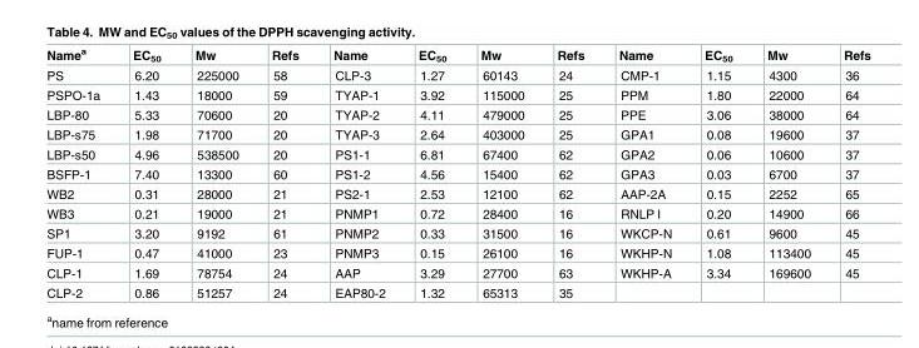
<table><thead><tr><td>Name<sup>a</sup></td><td>EC<sub>50</sub></td><td>Mw</td><td>Refs</td><td>Name</td><td>EC<sub>50</sub></td><td>Mw</td><td>Refs</td><td>Name</td><td>EC<sub>50</sub></td><td>Mw</td><td>Refs</td></tr></thead><tbody><tr><td>PS</td><td>6.20</td><td>225000</td><td>58</td><td>CLP-3</td><td>1.27</td><td>60143</td><td>24</td><td>CMP-1</td><td>1.15</td><td>4300</td><td>36</td></tr><tr><td>PSPO-1a</td><td>1.43</td><td>18000</td><td>59</td><td>TYAP-1</td><td>3.92</td><td>115000</td><td>25</td><td>PPM</td><td>1.80</td><td>22000</td><td>64</td></tr><tr><td>LBP-80</td><td>5.33</td><td>70600</td><td>20</td><td>TYAP-2</td><td>4.11</td><td>479000</td><td>25</td><td>PPE</td><td>3.06</td><td>38000</td><td>64</td></tr><tr><td>LBP-s75</td><td>1.98</td><td>71700</td><td>20</td><td>TYAP-3</td><td>2.64</td><td>403000</td><td>25</td><td>GPA1</td><td>0.08</td><td>19600</td><td>37</td></tr><tr><td>LBP-s50</td><td>4.96</td><td>538500</td><td>20</td><td>PS1-1</td><td>6.81</td><td>67400</td><td>62</td><td>GPA2</td><td>0.06</td><td>10600</td><td>37</td></tr><tr><td>BSFP-1</td><td>7.40</td><td>13300</td><td>60</td><td>PS1-2</td><td>4.56</td><td>15400</td><td>62</td><td>GPA3</td><td>0.03</td><td>6700</td><td>37</td></tr><tr><td>WB2</td><td>0.31</td><td>28000</td><td>21</td><td>PS2-1</td><td>2.53</td><td>12100</td><td>62</td><td>AAP-2A</td><td>0.15</td><td>2252</td><td>65</td></tr><tr><td>WB3</td><td>0.21</td><td>19000</td><td>21</td><td>PNMP1</td><td>0.72</td><td>28400</td><td>16</td><td>RNLP I</td><td>0.20</td><td>14900</td><td>66</td></tr><tr><td>SP1</td><td>3.20</td><td>9192</td><td>61</td><td>PNMP2</td><td>0.33</td><td>31500</td><td>16</td><td>WKCP-N</td><td>0.61</td><td>9600</td><td>45</td></tr><tr><td>FUP-1</td><td>0.47</td><td>41000</td><td>23</td><td>PNMP3</td><td>0.15</td><td>26100</td><td>16</td><td>WKHP-N</td><td>1.08</td><td>113400</td><td>45</td></tr><tr><td>CLP-1</td><td>1.69</td><td>78754</td><td>24</td><td>AAP</td><td>3.29</td><td>27700</td><td>63</td><td>WKHP-A</td><td>3.34</td><td>169600</td><td>45</td></tr><tr><td>CLP-2</td><td>0.86</td><td>51257</td><td>24</td><td>EAP80-2</td><td>1.32</td><td>65313</td><td>35</td><td></td><td></td><td></td><td></td></tr></tbody></table>